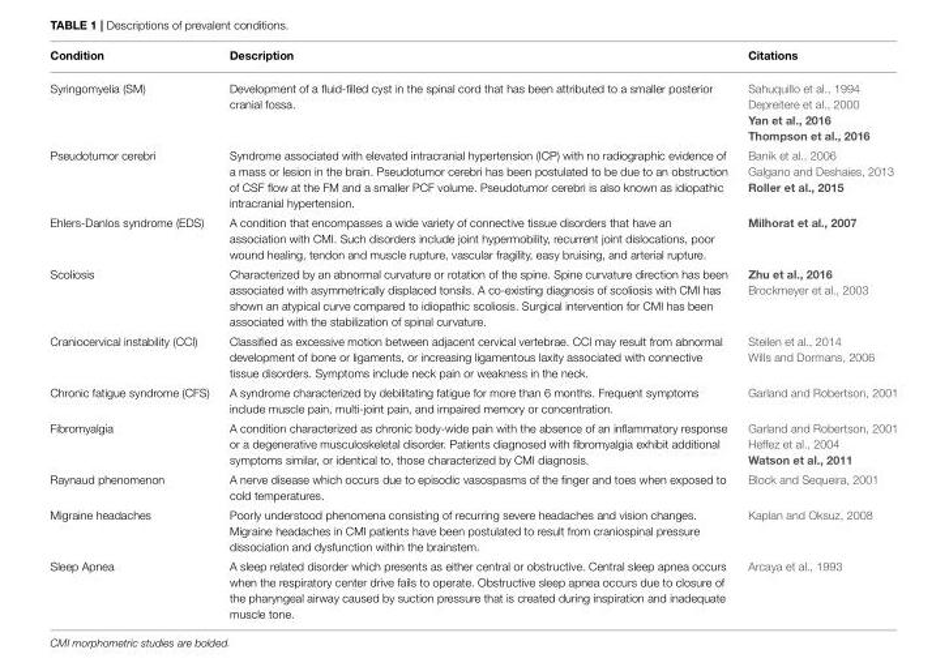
<table><thead><tr><td>Condition</td><td>Description</td><td>Citations</td></tr></thead><tbody><tr><td>Syringomyelia (SM)</td><td>Development of a fluid-filled cyst in the spinal cord that has been attributed to a smaller posterior cranial fossa.</td><td>Sahuquillo et al., 1994 Depreitere et al., 2000 Yan et al., 2016 Thompson et al., 2016</td></tr><tr><td>Pseudotumor cerebri</td><td>Syndrome associated with elevated intracranial hypertension (ICP) with no radiographic evidence of a mass or lesion in the brain. Pseudotumor cerebri has been postulated to be due to an obstruction of CSF flow at the FM and a smaller PCF volume. Pseudotumor cerebri is also known as idiopathic intracranial hypertension.</td><td>Banik et al., 2006 Galgano and Deshaies, 2013 Roller et al., 2015</td></tr><tr><td>Ehlers-Danlos syndrome (EDS)</td><td>A condition that encompasses a wide variety of connective tissue disorders that have an association with CMI. Such disorders include joint hypermobility, recurrent joint dislocations, poor wound healing, tendon and muscle rupture, vascular fragility, easy bruising, and arterial rupture.</td><td>Milhorat et al., 2007</td></tr><tr><td>Scoliosis</td><td>Characterized by an abnormal curvature or rotation of the spine. Spine curvature direction has been associated with asymmetrically displaced tonsils. A co-existing diagnosis of scoliosis with CMI has shown an atypical curve compared to idiopathic scoliosis. Surgical intervention for CMI has been associated with the stabilization of spinal curvature.</td><td>Zhu et al., 2016 Brockmeyer et al., 2003</td></tr><tr><td>Craniocervical instability (CCI)</td><td>Classified as excessive motion between adjacent cervical vertebrae. CCI may result from abnormal development of bone or ligaments, or increasing ligamentous laxity associated with connective tissue disorders. Symptoms include neck pain or weakness in the neck.</td><td>Steilen et al., 2014 Wills and Dormans, 2006</td></tr><tr><td>Chronic fatigue syndrome (CFS)</td><td>A syndrome characterized by debilitating fatigue for more than 6 months. Frequent symptoms include muscle pain, multi-joint pain, and impaired memory or concentration.</td><td>Garland and Robertson, 2001</td></tr><tr><td>Fibromyalgia</td><td>A condition characterized as chronic body-wide pain with the absence of an inflammatory response or a degenerative musculoskeletal disorder. Patients diagnosed with fibromyalgia exhibit additional symptoms similar, or identical to, those characterized by CMI diagnosis.</td><td>Garland and Robertson, 2001 Heffez et al., 2004 Watson et al., 2011</td></tr><tr><td>Raynaud phenomenon</td><td>A nerve disease which occurs due to episodic vasospasms of the finger and toes when exposed to cold temperatures.</td><td>Block and Sequeira, 2001</td></tr><tr><td>Migraine headaches</td><td>Poorly understood phenomena consisting of recurring severe headaches and vision changes. Migraine headaches in CMI patients have been postulated to result from craniospinal pressure dissociation and dysfunction within the brainstem.</td><td>Kaplan and Oksuz, 2008</td></tr><tr><td>Sleep Apnea</td><td>A sleep related disorder which presents as either central or obstructive. Central sleep apnea occurs when the respiratory center drive fails to operate. Obstructive sleep apnea occurs due to closure of the pharyngeal airway caused by suction pressure that is created during inspiration and inadequate muscle tone.</td><td>Arcaya et al., 1993</td></tr></tbody></table>